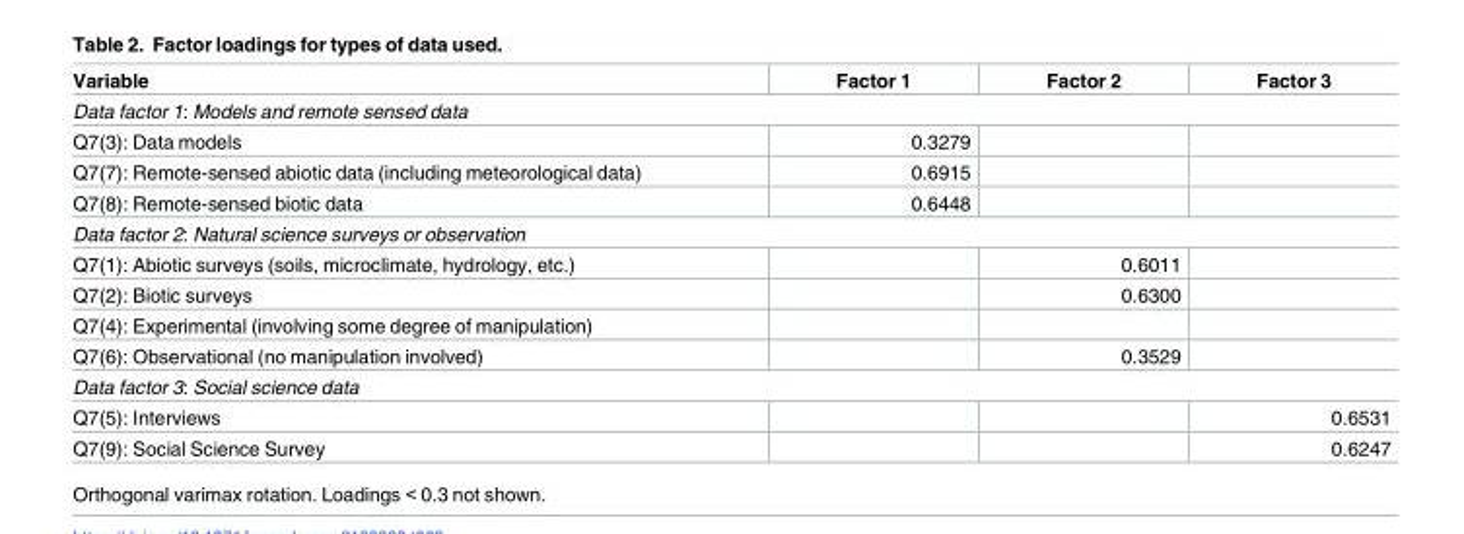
<table><thead><tr><td>Variable</td><td>Factor 1</td><td>Factor 2</td><td>Factor 3</td></tr></thead><tbody><tr><td colspan="4">Data factor 1: Models and remote sensed data</td></tr><tr><td>Q7(3): Data models</td><td>0.3279</td><td></td><td></td></tr><tr><td>Q7(7): Remote-sensed abiotic data (including meteorological data)</td><td>0.6915</td><td></td><td></td></tr><tr><td>Q7(8): Remote-sensed biotic data</td><td>0.6448</td><td></td><td></td></tr><tr><td colspan="4">Data factor 2: Natural science surveys or observation</td></tr><tr><td>Q7(1): Abiotic surveys (soils, microclimate, hydrology, etc.)</td><td></td><td>0.6011</td><td></td></tr><tr><td>Q7(2): Biotic surveys</td><td></td><td>0.6300</td><td></td></tr><tr><td colspan="4">Q7(4): Experimental (involving some degree of manipulation)</td></tr><tr><td>Q7(6): Observational (no manipulation involved)</td><td></td><td>0.3529</td><td></td></tr><tr><td colspan="4">Data factor 3: Social science data</td></tr><tr><td>Q7(5): Interviews</td><td></td><td></td><td>0.6531</td></tr><tr><td>Q7(9): Social Science Survey</td><td></td><td></td><td>0.6247</td></tr></tbody></table>